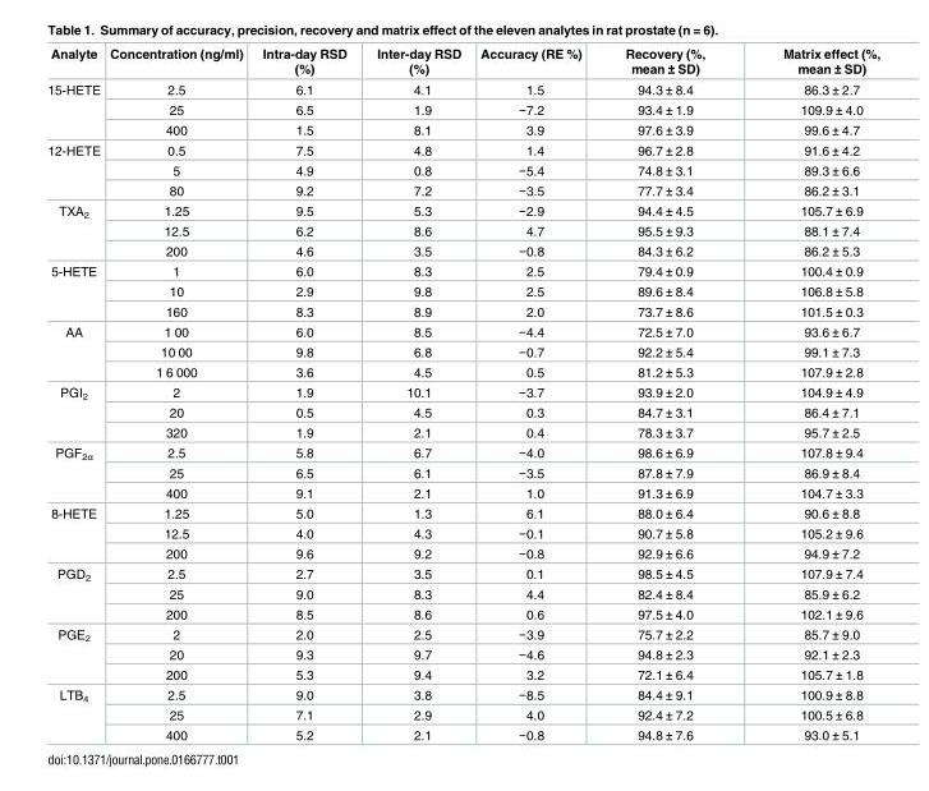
<table><thead><tr><td>Analyte</td><td>Concentration (ng/ml)</td><td>Intra-day RSD (%)</td><td>Inter-day RSD (%)</td><td>Accuracy (RE %)</td><td>Recovery (%, mean ± SD)</td><td>Matrix effect (%, mean ± SD)</td></tr></thead><tbody><tr><td rowspan="3">15-HETE</td><td>2.5</td><td>6.1</td><td>4.1</td><td>1.5</td><td>94.3 ± 8.4</td><td>86.3 ± 2.7</td></tr><tr><td>25</td><td>6.5</td><td>1.9</td><td>−7.2</td><td>93.4 ± 1.9</td><td>109.9 ± 4.0</td></tr><tr><td>400</td><td>1.5</td><td>8.1</td><td>3.9</td><td>97.6 ± 3.9</td><td>99.6 ± 4.7</td></tr><tr><td rowspan="3">12-HETE</td><td>0.5</td><td>7.5</td><td>4.8</td><td>1.4</td><td>96.7 ± 2.8</td><td>91.6 ± 4.2</td></tr><tr><td>5</td><td>4.9</td><td>0.8</td><td>−5.4</td><td>74.8 ± 3.1</td><td>89.3 ± 6.6</td></tr><tr><td>80</td><td>9.2</td><td>7.2</td><td>−3.5</td><td>77.7 ± 3.4</td><td>86.2 ± 3.1</td></tr><tr><td rowspan="3">TXA<sub>2</sub></td><td>1.25</td><td>9.5</td><td>5.3</td><td>−2.9</td><td>94.4 ± 4.5</td><td>105.7 ± 6.9</td></tr><tr><td>12.5</td><td>6.2</td><td>8.6</td><td>4.7</td><td>95.5 ± 9.3</td><td>88.1 ± 7.4</td></tr><tr><td>200</td><td>4.6</td><td>3.5</td><td>−0.8</td><td>84.3 ± 6.2</td><td>86.2 ± 5.3</td></tr><tr><td rowspan="3">5-HETE</td><td>1</td><td>6.0</td><td>8.3</td><td>2.5</td><td>79.4 ± 0.9</td><td>100.4 ± 0.9</td></tr><tr><td>10</td><td>2.9</td><td>9.8</td><td>2.5</td><td>89.6 ± 8.4</td><td>106.8 ± 5.8</td></tr><tr><td>160</td><td>8.3</td><td>8.9</td><td>2.0</td><td>73.7 ± 8.6</td><td>101.5 ± 0.3</td></tr><tr><td rowspan="3">AA</td><td>1 00</td><td>6.0</td><td>8.5</td><td>−4.4</td><td>72.5 ± 7.0</td><td>93.6 ± 6.7</td></tr><tr><td>10 00</td><td>9.8</td><td>6.8</td><td>−0.7</td><td>92.2 ± 5.4</td><td>99.1 ± 7.3</td></tr><tr><td>1 6 000</td><td>3.6</td><td>4.5</td><td>0.5</td><td>81.2 ± 5.3</td><td>107.9 ± 2.8</td></tr><tr><td rowspan="3">PGI<sub>2</sub></td><td>2</td><td>1.9</td><td>10.1</td><td>−3.7</td><td>93.9 ± 2.0</td><td>104.9 ± 4.9</td></tr><tr><td>20</td><td>0.5</td><td>4.5</td><td>0.3</td><td>84.7 ± 3.1</td><td>86.4 ± 7.1</td></tr><tr><td>320</td><td>1.9</td><td>2.1</td><td>0.4</td><td>78.3 ± 3.7</td><td>95.7 ± 2.5</td></tr><tr><td rowspan="3">PGF<sub>2α</sub></td><td>2.5</td><td>5.8</td><td>6.7</td><td>−4.0</td><td>98.6 ± 6.9</td><td>107.8 ± 9.4</td></tr><tr><td>25</td><td>6.5</td><td>6.1</td><td>−3.5</td><td>87.8 ± 7.9</td><td>86.9 ± 8.4</td></tr><tr><td>400</td><td>9.1</td><td>2.1</td><td>1.0</td><td>91.3 ± 6.9</td><td>104.7 ± 3.3</td></tr><tr><td rowspan="3">8-HETE</td><td>1.25</td><td>5.0</td><td>1.3</td><td>6.1</td><td>88.0 ± 6.4</td><td>90.6 ± 8.8</td></tr><tr><td>12.5</td><td>4.0</td><td>4.3</td><td>−0.1</td><td>90.7 ± 5.8</td><td>105.2 ± 9.6</td></tr><tr><td>200</td><td>9.6</td><td>9.2</td><td>−0.8</td><td>92.9 ± 6.6</td><td>94.9 ± 7.2</td></tr><tr><td rowspan="3">PGD<sub>2</sub></td><td>2.5</td><td>2.7</td><td>3.5</td><td>0.1</td><td>98.5 ± 4.5</td><td>107.9 ± 7.4</td></tr><tr><td>25</td><td>9.0</td><td>8.3</td><td>4.4</td><td>82.4 ± 8.4</td><td>85.9 ± 6.2</td></tr><tr><td>200</td><td>8.5</td><td>8.6</td><td>0.6</td><td>97.5 ± 4.0</td><td>102.1 ± 9.6</td></tr><tr><td rowspan="3">PGE<sub>2</sub></td><td>2</td><td>2.0</td><td>2.5</td><td>−3.9</td><td>75.7 ± 2.2</td><td>85.7 ± 9.0</td></tr><tr><td>20</td><td>9.3</td><td>9.7</td><td>−4.6</td><td>94.8 ± 2.3</td><td>92.1 ± 2.3</td></tr><tr><td>200</td><td>5.3</td><td>9.4</td><td>3.2</td><td>72.1 ± 6.4</td><td>105.7 ± 1.8</td></tr><tr><td rowspan="3">LTB<sub>4</sub></td><td>2.5</td><td>9.0</td><td>3.8</td><td>−8.5</td><td>84.4 ± 9.1</td><td>100.9 ± 8.8</td></tr><tr><td>25</td><td>7.1</td><td>2.9</td><td>4.0</td><td>92.4 ± 7.2</td><td>100.5 ± 6.8</td></tr><tr><td>400</td><td>5.2</td><td>2.1</td><td>−0.8</td><td>94.8 ± 7.6</td><td>93.0 ± 5.1</td></tr></tbody></table>